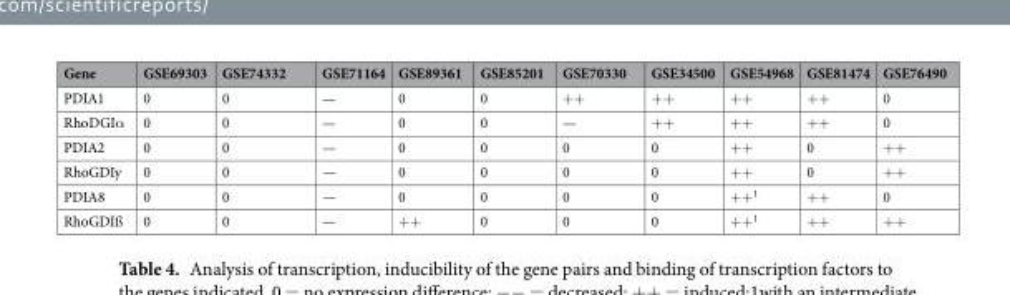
<table><thead><tr><td>Gene</td><td>GSE69303</td><td>GSE74332</td><td>GSE71164</td><td>GSE89361</td><td>GSE85201</td><td>GSE70330</td><td>GSE34500</td><td>GSE54968</td><td>GSE81474</td><td>GSE76490</td></tr></thead><tbody><tr><td>PDIA1</td><td>0</td><td>0</td><td>—</td><td>0</td><td>0</td><td>++</td><td>++</td><td>++</td><td>++</td><td>0</td></tr><tr><td>RhoDGIα</td><td>0</td><td>0</td><td>—</td><td>0</td><td>0</td><td>—</td><td>++</td><td>++</td><td>++</td><td>0</td></tr><tr><td>PDIA2</td><td>0</td><td>0</td><td>—</td><td>0</td><td>0</td><td>0</td><td>0</td><td>++</td><td>0</td><td>++</td></tr><tr><td>RhoGDIy</td><td>0</td><td>0</td><td>—</td><td>0</td><td>0</td><td>0</td><td>0</td><td>++</td><td>0</td><td>++</td></tr><tr><td>PDIA8</td><td>0</td><td>0</td><td>—</td><td>0</td><td>0</td><td>0</td><td>0</td><td>++<sup>1</sup></td><td>++</td><td>0</td></tr><tr><td>RhoGDIß</td><td>0</td><td>0</td><td>—</td><td>++</td><td>0</td><td>0</td><td>0</td><td>++<sup>1</sup></td><td>++</td><td>++</td></tr></tbody></table>